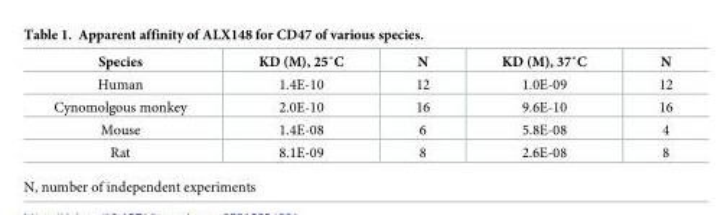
<table><thead><tr><td>Species</td><td>KD (M), 25˚C</td><td>N</td><td>KD (M), 37˚C</td><td>N</td></tr></thead><tbody><tr><td>Human</td><td>1.4E-10</td><td>12</td><td>1.0E-09</td><td>12</td></tr><tr><td>Cynomolgous monkey</td><td>2.0E-10</td><td>16</td><td>9.6E-10</td><td>16</td></tr><tr><td>Mouse</td><td>1.4E-08</td><td>6</td><td>5.8E-08</td><td>4</td></tr><tr><td>Rat</td><td>8.1E-09</td><td>8</td><td>2.6E-08</td><td>8</td></tr></tbody></table>